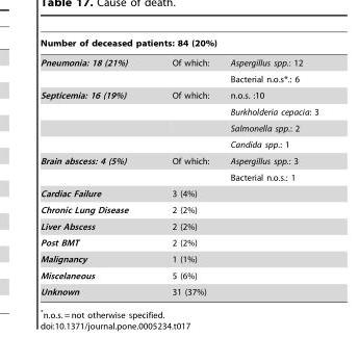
<table><thead><tr><td colspan="3">Number of deceased patients: 84 (20%)</td></tr><tr><td>Pneumonia: 18 (21%)</td><td>Of which:</td><td>Aspergillus spp.: 12</td></tr></thead><tbody><tr><td></td><td></td><td>Bacterial n.o.s*.: 6</td></tr><tr><td rowspan="4">Septicemia: 16 (19%)</td><td>Of which:</td><td>n.o.s. :10</td></tr><tr><td></td><td>Burkholderia cepacia: 3</td></tr><tr><td></td><td>Salmonella spp.: 2</td></tr><tr><td></td><td>Candida spp.: 1</td></tr><tr><td rowspan="2">Brain abscess: 4 (5%)</td><td>Of which:</td><td>Aspergillus spp.: 3</td></tr><tr><td></td><td>Bacterial n.o.s.: 1</td></tr><tr><td>Cardiac Failure</td><td colspan="2">3 (4%)</td></tr><tr><td>Chronic Lung Disease</td><td colspan="2">2 (2%)</td></tr><tr><td>Liver Abscess</td><td colspan="2">2 (2%)</td></tr><tr><td>Post BMT</td><td colspan="2">2 (2%)</td></tr><tr><td>Malignancy</td><td colspan="2">1 (1%)</td></tr><tr><td>Miscelaneous</td><td colspan="2">5 (6%)</td></tr><tr><td>Unknown</td><td colspan="2">31 (37%)</td></tr></tbody></table>